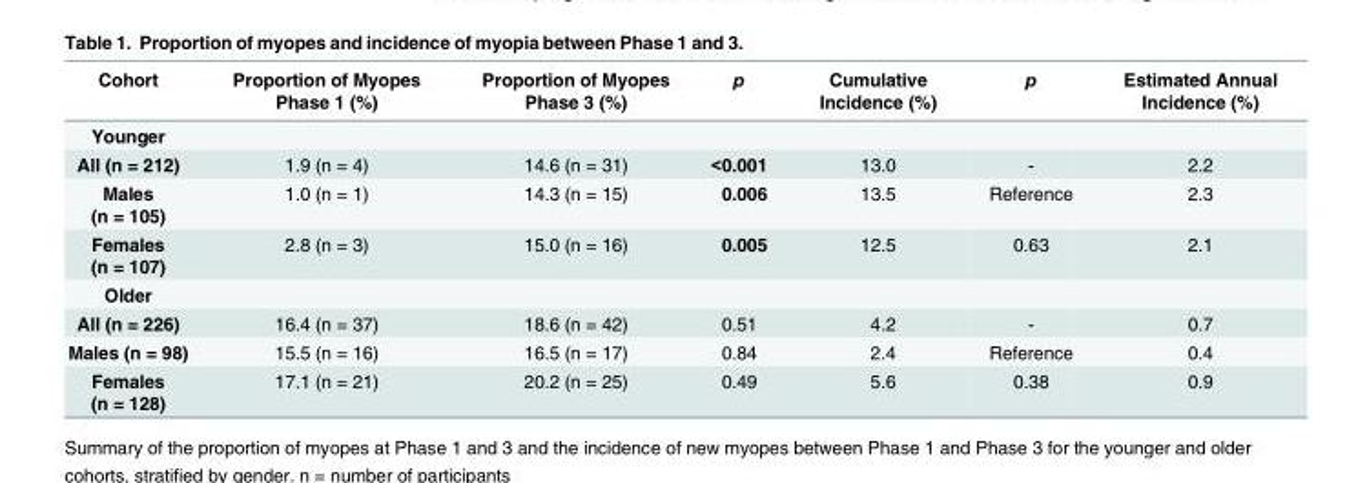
<table><thead><tr><td>Cohort</td><td>Proportion of Myopes Phase 1 (%)</td><td>Proportion of Myopes Phase 3 (%)</td><td>p</td><td>Cumulative Incidence (%)</td><td>p</td><td>Estimated Annual Incidence (%)</td></tr></thead><tbody><tr><td colspan="7">Younger</td></tr><tr><td>All (n = 212)</td><td>1.9 (n = 4)</td><td>14.6 (n = 31)</td><td>&lt;0.001</td><td>13.0</td><td>-</td><td>2.2</td></tr><tr><td>Males (n = 105)</td><td>1.0 (n = 1)</td><td>14.3 (n = 15)</td><td>0.006</td><td>13.5</td><td>Reference</td><td>2.3</td></tr><tr><td>Females (n = 107)</td><td>2.8 (n = 3)</td><td>15.0 (n = 16)</td><td>0.005</td><td>12.5</td><td>0.63</td><td>2.1</td></tr><tr><td colspan="7">Older</td></tr><tr><td>All (n = 226)</td><td>16.4 (n = 37)</td><td>18.6 (n = 42)</td><td>0.51</td><td>4.2</td><td>-</td><td>0.7</td></tr><tr><td>Males (n = 98)</td><td>15.5 (n = 16)</td><td>16.5 (n = 17)</td><td>0.84</td><td>2.4</td><td>Reference</td><td>0.4</td></tr><tr><td>Females (n = 128)</td><td>17.1 (n = 21)</td><td>20.2 (n = 25)</td><td>0.49</td><td>5.6</td><td>0.38</td><td>0.9</td></tr></tbody></table>